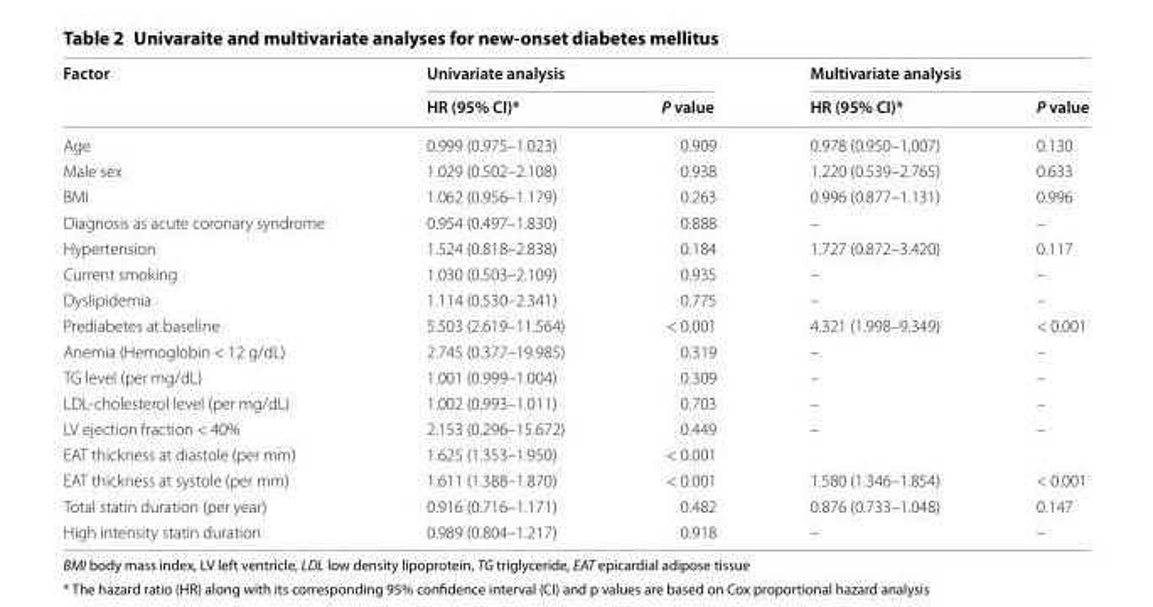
<table><thead><tr><td rowspan="2">Factor</td><td colspan="2">Univariate analysis</td><td colspan="2">Multivariate analysis</td></tr><tr><td>HR (95% CI)*</td><td>P value</td><td>HR (95% CI)*</td><td>P value</td></tr></thead><tbody><tr><td>Age</td><td>0.999 (0.975–1.023)</td><td>0.909</td><td>0.978 (0.950–1.007)</td><td>0.130</td></tr><tr><td>Male sex</td><td>1.029 (0.502–2.108)</td><td>0.938</td><td>1.220 (0.539–2.765)</td><td>0.633</td></tr><tr><td>BMI</td><td>1.062 (0.956–1.179)</td><td>0.263</td><td>0.996 (0.877–1.131)</td><td>0.996</td></tr><tr><td>Diagnosis as acute coronary syndrome</td><td>0.954 (0.497–1.830)</td><td>0.888</td><td>–</td><td>–</td></tr><tr><td>Hypertension</td><td>1.524 (0.818–2.838)</td><td>0.184</td><td>1.727 (0.872–3.420)</td><td>0.117</td></tr><tr><td>Current smoking</td><td>1.030 (0.503–2.109)</td><td>0.935</td><td>–</td><td>–</td></tr><tr><td>Dyslipidemia</td><td>1.114 (0.530–2.341)</td><td>0.775</td><td>–</td><td>–</td></tr><tr><td>Prediabetes at baseline</td><td>5.503 (2.619–11.564)</td><td>&lt; 0.001</td><td>4.321 (1.998–9.349)</td><td>&lt; 0.001</td></tr><tr><td>Anemia (Hemoglobin &lt; 12 g/dL)</td><td>2.745 (0.377–19.985)</td><td>0.319</td><td>–</td><td>–</td></tr><tr><td>TG level (per mg/dL)</td><td>1.001 (0.999–1.004)</td><td>0.309</td><td>–</td><td>–</td></tr><tr><td>LDL‑cholesterol level (per mg/dL)</td><td>1.002 (0.993–1.011)</td><td>0.703</td><td>–</td><td>–</td></tr><tr><td>LV ejection fraction &lt; 40%</td><td>2.153 (0.296–15.672)</td><td>0.449</td><td>–</td><td>–</td></tr><tr><td>EAT thickness at diastole (per mm)</td><td>1.625 (1.353–1.950)</td><td>&lt; 0.001</td><td></td><td></td></tr><tr><td>EAT thickness at systole (per mm)</td><td>1.611 (1.388–1.870)</td><td>&lt; 0.001</td><td>1.580 (1.346–1.854)</td><td>&lt; 0.001</td></tr><tr><td>Total statin duration (per year)</td><td>0.916 (0.716–1.171)</td><td>0.482</td><td>0.876 (0.733–1.048)</td><td>0.147</td></tr><tr><td>High intensity statin duration</td><td>0.989 (0.804–1.217)</td><td>0.918</td><td>–</td><td>–</td></tr></tbody></table>